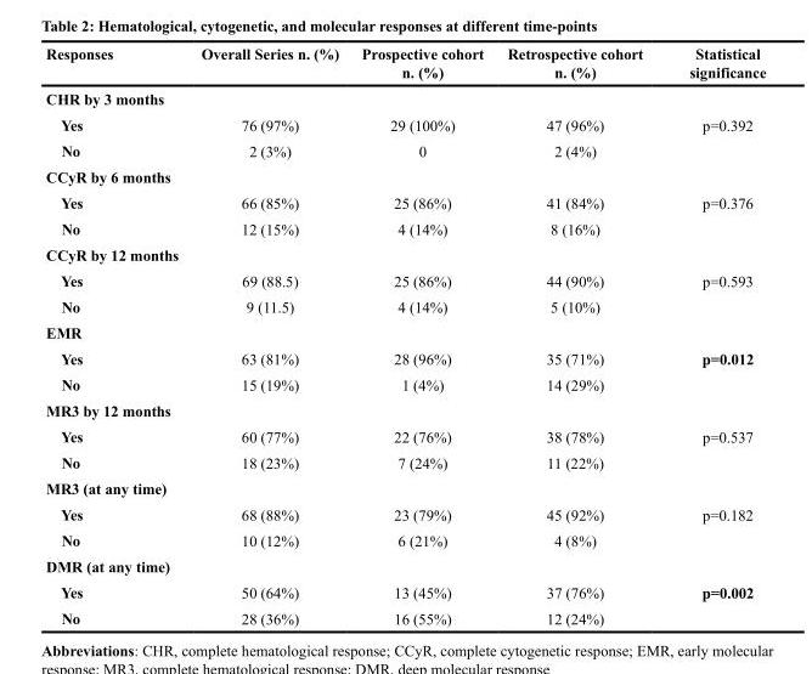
<table><thead><tr><td>Responses</td><td>Overall Series n. (%)</td><td>Prospective cohort n. (%)</td><td>Retrospective cohort n. (%)</td><td>Statistical significance</td></tr></thead><tbody><tr><td colspan="5">CHR by 3 months</td></tr><tr><td>Yes</td><td>76 (97%)</td><td>29 (100%)</td><td>47 (96%)</td><td>p=0.392</td></tr><tr><td>No</td><td>2 (3%)</td><td>0</td><td>2 (4%)</td><td></td></tr><tr><td colspan="5">CCyR by 6 months</td></tr><tr><td>Yes</td><td>66 (85%)</td><td>25 (86%)</td><td>41 (84%)</td><td>p=0.376</td></tr><tr><td>No</td><td>12 (15%)</td><td>4 (14%)</td><td>8 (16%)</td><td></td></tr><tr><td colspan="5">CCyR by 12 months</td></tr><tr><td>Yes</td><td>69 (88.5)</td><td>25 (86%)</td><td>44 (90%)</td><td>p=0.593</td></tr><tr><td>No</td><td>9 (11.5)</td><td>4 (14%)</td><td>5 (10%)</td><td></td></tr><tr><td colspan="5">EMR</td></tr><tr><td>Yes</td><td>63 (81%)</td><td>28 (96%)</td><td>35 (71%)</td><td>p=0.012</td></tr><tr><td>No</td><td>15 (19%)</td><td>1 (4%)</td><td>14 (29%)</td><td></td></tr><tr><td colspan="5">MR3 by 12 months</td></tr><tr><td>Yes</td><td>60 (77%)</td><td>22 (76%)</td><td>38 (78%)</td><td>p=0.537</td></tr><tr><td>No</td><td>18 (23%)</td><td>7 (24%)</td><td>11 (22%)</td><td></td></tr><tr><td colspan="5">MR3 (at any time)</td></tr><tr><td>Yes</td><td>68 (88%)</td><td>23 (79%)</td><td>45 (92%)</td><td>p=0.182</td></tr><tr><td>No</td><td>10 (12%)</td><td>6 (21%)</td><td>4 (8%)</td><td></td></tr><tr><td colspan="5">DMR (at any time)</td></tr><tr><td>Yes</td><td>50 (64%)</td><td>13 (45%)</td><td>37 (76%)</td><td>p=0.002</td></tr><tr><td>No</td><td>28 (36%)</td><td>16 (55%)</td><td>12 (24%)</td><td></td></tr></tbody></table>